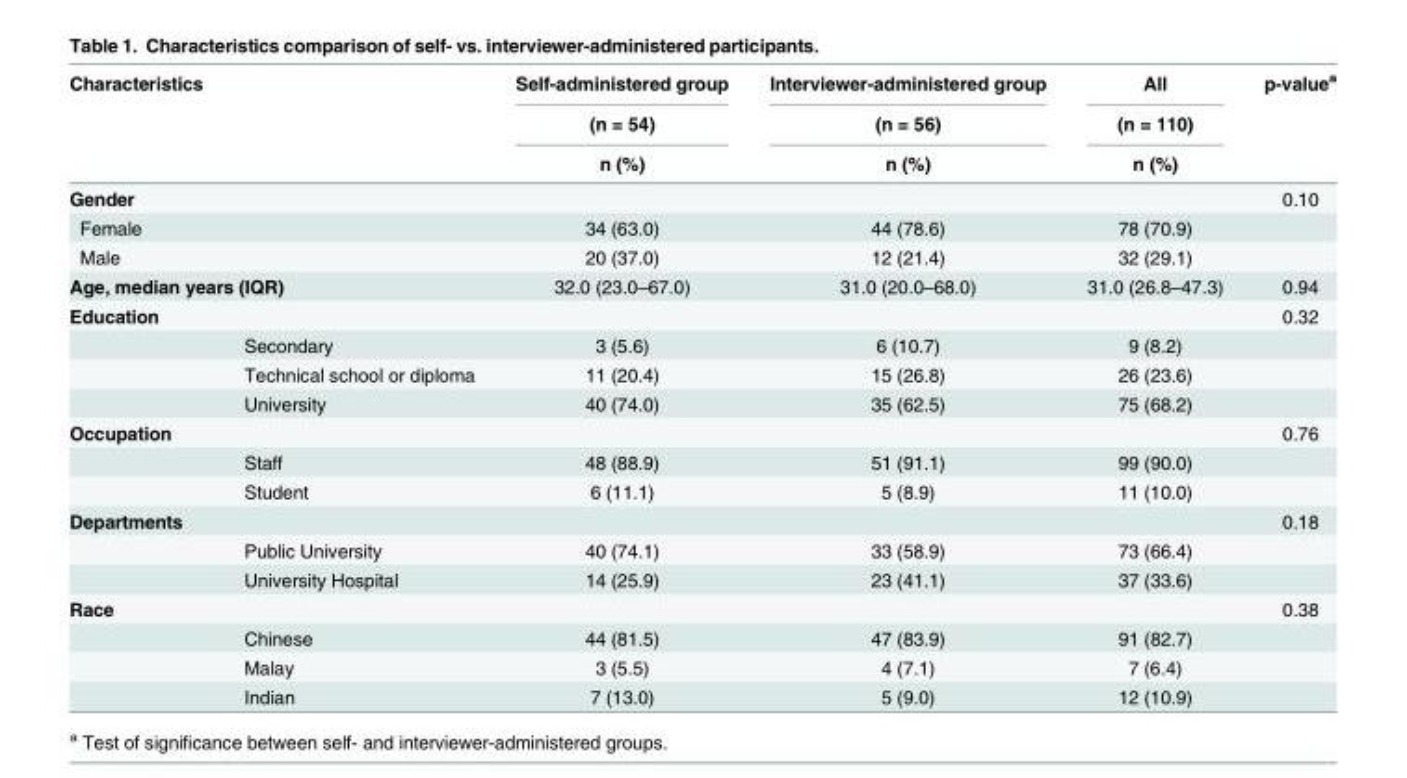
<table><thead><tr><td rowspan="3">Characteristics</td><td rowspan="3"></td><td rowspan="3">Self-administered group (n = 54) n (%)</td><td rowspan="3">Interviewer-administered group (n = 56) n (%)</td><td rowspan="3">All (n = 110) n (%)</td><td rowspan="3">p-value<sup>a</sup></td></tr><tr></tr><tr></tr></thead><tbody><tr><td colspan="2">Gender</td><td></td><td></td><td></td><td>0.10</td></tr><tr><td colspan="2">Female</td><td>34 (63.0)</td><td>44 (78.6)</td><td>78 (70.9)</td><td></td></tr><tr><td colspan="2">Male</td><td>20 (37.0)</td><td>12 (21.4)</td><td>32 (29.1)</td><td></td></tr><tr><td colspan="2">Age, median years (IQR)</td><td>32.0 (23.0–67.0)</td><td>31.0 (20.0–68.0)</td><td>31.0 (26.8–47.3)</td><td>0.94</td></tr><tr><td colspan="2">Education</td><td></td><td></td><td></td><td>0.32</td></tr><tr><td></td><td>Secondary</td><td>3 (5.6)</td><td>6 (10.7)</td><td>9 (8.2)</td><td></td></tr><tr><td></td><td>Technical school or diploma</td><td>11 (20.4)</td><td>15 (26.8)</td><td>26 (23.6)</td><td></td></tr><tr><td></td><td>University</td><td>40 (74.0)</td><td>35 (62.5)</td><td>75 (68.2)</td><td></td></tr><tr><td colspan="2">Occupation</td><td></td><td></td><td></td><td>0.76</td></tr><tr><td></td><td>Staff</td><td>48 (88.9)</td><td>51 (91.1)</td><td>99 (90.0)</td><td></td></tr><tr><td></td><td>Student</td><td>6 (11.1)</td><td>5 (8.9)</td><td>11 (10.0)</td><td></td></tr><tr><td colspan="2">Departments</td><td></td><td></td><td></td><td>0.18</td></tr><tr><td></td><td>Public University</td><td>40 (74.1)</td><td>33 (58.9)</td><td>73 (66.4)</td><td></td></tr><tr><td></td><td>University Hospital</td><td>14 (25.9)</td><td>23 (41.1)</td><td>37 (33.6)</td><td></td></tr><tr><td colspan="2">Race</td><td></td><td></td><td></td><td>0.38</td></tr><tr><td></td><td>Chinese</td><td>44 (81.5)</td><td>47 (83.9)</td><td>91 (82.7)</td><td></td></tr><tr><td></td><td>Malay</td><td>3 (5.5)</td><td>4 (7.1)</td><td>7 (6.4)</td><td></td></tr><tr><td></td><td>Indian</td><td>7 (13.0)</td><td>5 (9.0)</td><td>12 (10.9)</td><td></td></tr></tbody></table>